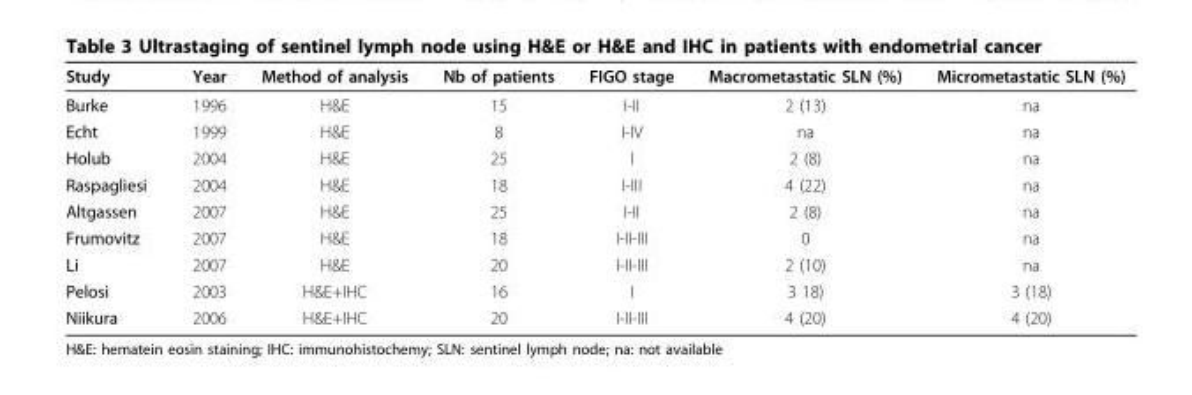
<table><thead><tr><td>Study</td><td>Year</td><td>Method of analysis</td><td>Nb of patients</td><td>FIGO stage</td><td>Macrometastatic SLN (%)</td><td>Micrometastatic SLN (%)</td></tr></thead><tbody><tr><td>Burke</td><td>1996</td><td>H&amp;E</td><td>15</td><td>I-II</td><td>2 (13)</td><td>na</td></tr><tr><td>Echt</td><td>1999</td><td>H&amp;E</td><td>8</td><td>I-IV</td><td>na</td><td>na</td></tr><tr><td>Holub</td><td>2004</td><td>H&amp;E</td><td>25</td><td>I</td><td>2 (8)</td><td>na</td></tr><tr><td>Raspagliesi</td><td>2004</td><td>H&amp;E</td><td>18</td><td>I-III</td><td>4 (22)</td><td>na</td></tr><tr><td>Altgassen</td><td>2007</td><td>H&amp;E</td><td>25</td><td>I-II</td><td>2 (8)</td><td>na</td></tr><tr><td>Frumovitz</td><td>2007</td><td>H&amp;E</td><td>18</td><td>I-II-III</td><td>0</td><td>na</td></tr><tr><td>Li</td><td>2007</td><td>H&amp;E</td><td>20</td><td>I-II-III</td><td>2 (10)</td><td>na</td></tr><tr><td>Pelosi</td><td>2003</td><td>H&amp;E+IHC</td><td>16</td><td>I</td><td>3 18)</td><td>3 (18)</td></tr><tr><td>Niikura</td><td>2006</td><td>H&amp;E+IHC</td><td>20</td><td>I-II-III</td><td>4 (20)</td><td>4 (20)</td></tr></tbody></table>